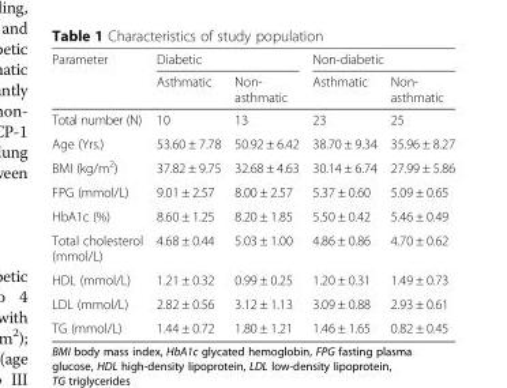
<table><thead><tr><td rowspan="2">Parameter</td><td colspan="2">Diabetic</td><td colspan="2">Non-diabetic</td></tr><tr><td>Asthmatic</td><td>Non- asthmatic</td><td>Asthmatic</td><td>Non- asthmatic</td></tr></thead><tbody><tr><td>Total number (N)</td><td>10</td><td>13</td><td>23</td><td>25</td></tr><tr><td>Age (Yrs.)</td><td>53.60 ± 7.78</td><td>50.92 ± 6.42</td><td>38.70 ± 9.34</td><td>35.96 ± 8.27</td></tr><tr><td>BMI (kg/m<sup>2</sup>)</td><td>37.82 ± 9.75</td><td>32.68 ± 4.63</td><td>30.14 ± 6.74</td><td>27.99 ± 5.86</td></tr><tr><td>FPG (mmol/L)</td><td>9.01 ± 2.57</td><td>8.00 ± 2.57</td><td>5.37 ± 0.60</td><td>5.09 ± 0.65</td></tr><tr><td>HbA1c (%)</td><td>8.60 ± 1.25</td><td>8.20 ± 1.85</td><td>5.50 ± 0.42</td><td>5.46 ± 0.49</td></tr><tr><td>Total cholesterol (mmol/L)</td><td>4.68 ± 0.44</td><td>5.03 ± 1.00</td><td>4.86 ± 0.86</td><td>4.70 ± 0.62</td></tr><tr><td>HDL (mmol/L)</td><td>1.21 ± 0.32</td><td>0.99 ± 0.25</td><td>1.20 ± 0.31</td><td>1.49 ± 0.73</td></tr><tr><td>LDL (mmol/L)</td><td>2.82 ± 0.56</td><td>3.12 ± 1.13</td><td>3.09 ± 0.88</td><td>2.93 ± 0.61</td></tr><tr><td>TG (mmol/L)</td><td>1.44 ± 0.72</td><td>1.80 ± 1.21</td><td>1.46 ± 1.65</td><td>0.82 ± 0.45</td></tr></tbody></table>